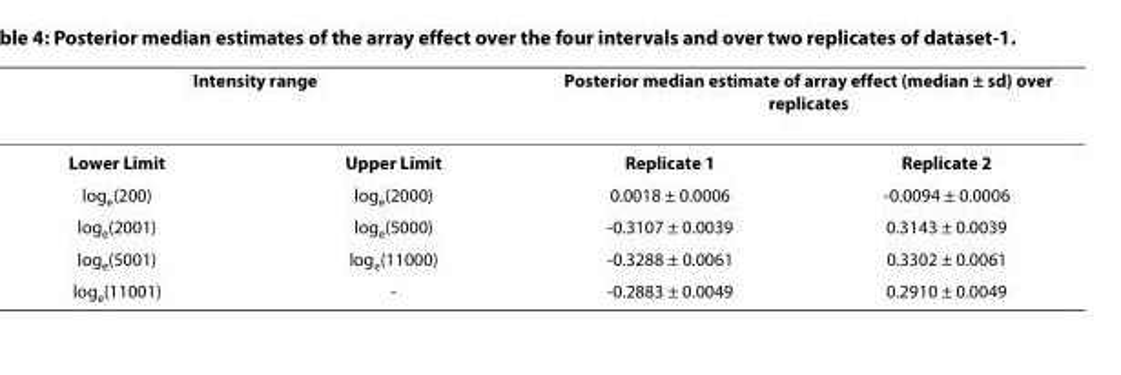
<table><thead><tr><td colspan="2">Intensity range</td><td colspan="2">Posterior median estimate of array effect (median ± sd) over replicates</td></tr><tr><td>Lower Limit</td><td>Upper Limit</td><td>Replicate 1</td><td>Replicate 2</td></tr></thead><tbody><tr><td>log<sub>e</sub>(200)</td><td>log<sub>e</sub>(2000)</td><td>0.0018 ± 0.0006</td><td>-0.0094 ± 0.0006</td></tr><tr><td>log<sub>e</sub>(2001)</td><td>log<sub>e</sub>(5000)</td><td>-0.3107 ± 0.0039</td><td>0.3143 ± 0.0039</td></tr><tr><td>log<sub>e</sub>(5001)</td><td>log<sub>e</sub>(11000)</td><td>-0.3288 ± 0.0061</td><td>0.3302 ± 0.0061</td></tr><tr><td>log<sub>e</sub>(11001)</td><td>-</td><td>-0.2883 ± 0.0049</td><td>0.2910 ± 0.0049</td></tr></tbody></table>